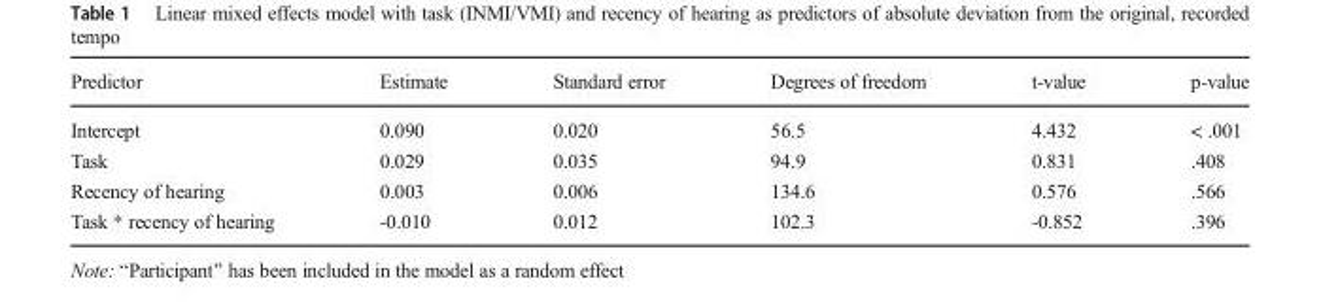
<table><thead><tr><td>Predictor</td><td>Estimate</td><td>Standard error</td><td>Degrees of freedom</td><td>t-value</td><td>p-value</td></tr></thead><tbody><tr><td>Intercept</td><td>0.090</td><td>0.020</td><td>56.5</td><td>4.432</td><td>&lt; .001</td></tr><tr><td>Task</td><td>0.029</td><td>0.035</td><td>94.9</td><td>0.831</td><td>.408</td></tr><tr><td>Recency of hearing</td><td>0.003</td><td>0.006</td><td>134.6</td><td>0.576</td><td>.566</td></tr><tr><td>Task * recency of hearing</td><td>-0.010</td><td>0.012</td><td>102.3</td><td>-0.852</td><td>.396</td></tr></tbody></table>